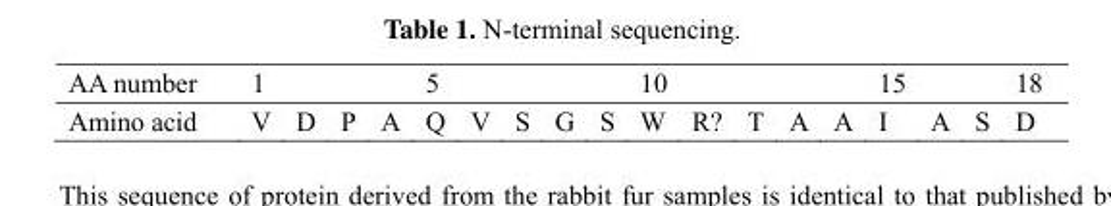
<table><thead><tr><td>AA number</td><td>1</td><td></td><td></td><td></td><td>5</td><td></td><td></td><td></td><td></td><td>10</td><td></td><td></td><td></td><td></td><td>15</td><td></td><td></td><td>18</td></tr></thead><tbody><tr><td>Amino acid</td><td>V</td><td>D</td><td>P</td><td>A</td><td>Q</td><td>V</td><td>S</td><td>G</td><td>S</td><td>W</td><td>R?</td><td>T</td><td>A</td><td>A</td><td>I</td><td>A</td><td>S</td><td>D</td></tr></tbody></table>